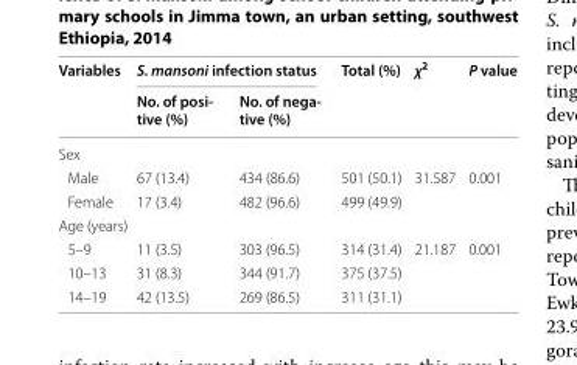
<table><thead><tr><td rowspan="2">Variables</td><td colspan="2">S. mansoni infection status</td><td rowspan="2">Total (%)</td><td rowspan="2">χ<sup>2</sup></td><td rowspan="2">P value</td></tr><tr><td>No. of posi- tive (%)</td><td>No. of nega- tive (%)</td></tr></thead><tbody><tr><td colspan="6">Sex</td></tr><tr><td>Male</td><td>67 (13.4)</td><td>434 (86.6)</td><td>501 (50.1)</td><td rowspan="2">31.587</td><td rowspan="2">0.001</td></tr><tr><td>Female</td><td>17 (3.4)</td><td>482 (96.6)</td><td>499 (49.9)</td></tr><tr><td colspan="6">Age (years)</td></tr><tr><td>5–9</td><td>11 (3.5)</td><td>303 (96.5)</td><td>314 (31.4)</td><td rowspan="3">21.187</td><td rowspan="3">0.001</td></tr><tr><td>10–13</td><td>31 (8.3)</td><td>344 (91.7)</td><td>375 (37.5)</td></tr><tr><td>14–19</td><td>42 (13.5)</td><td>269 (86.5)</td><td>311 (31.1)</td></tr></tbody></table>